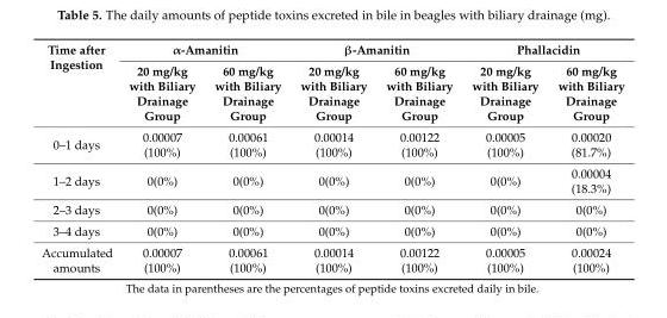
<table><thead><tr><td rowspan="2">Time after Ingestion</td><td colspan="2">α-Amanitin</td><td colspan="2">β-Amanitin</td><td colspan="2">Phallacidin</td></tr><tr><td>20 mg/kg with Biliary Drainage Group</td><td>60 mg/kg with Biliary Drainage Group</td><td>20 mg/kg with Biliary Drainage Group</td><td>60 mg/kg with Biliary Drainage Group</td><td>20 mg/kg with Biliary Drainage Group</td><td>60 mg/kg with Biliary Drainage Group</td></tr></thead><tbody><tr><td>0–1 days</td><td>0.00007 (100%)</td><td>0.00061 (100%)</td><td>0.00014 (100%)</td><td>0.00122 (100%)</td><td>0.00005 (100%)</td><td>0.00020 (81.7%)</td></tr><tr><td>1–2 days</td><td>0(0%)</td><td>0(0%)</td><td>0(0%)</td><td>0(0%)</td><td>0(0%)</td><td>0.00004 (18.3%)</td></tr><tr><td>2–3 days</td><td>0(0%)</td><td>0(0%)</td><td>0(0%)</td><td>0(0%)</td><td>0(0%)</td><td>0(0%)</td></tr><tr><td>3–4 days</td><td>0(0%)</td><td>0(0%)</td><td>0(0%)</td><td>0(0%)</td><td>0(0%)</td><td>0(0%)</td></tr><tr><td>Accumulated amounts</td><td>0.00007 (100%)</td><td>0.00061 (100%)</td><td>0.00014 (100%)</td><td>0.00122 (100%)</td><td>0.00005 (100%)</td><td>0.00024 (100%)</td></tr></tbody></table>